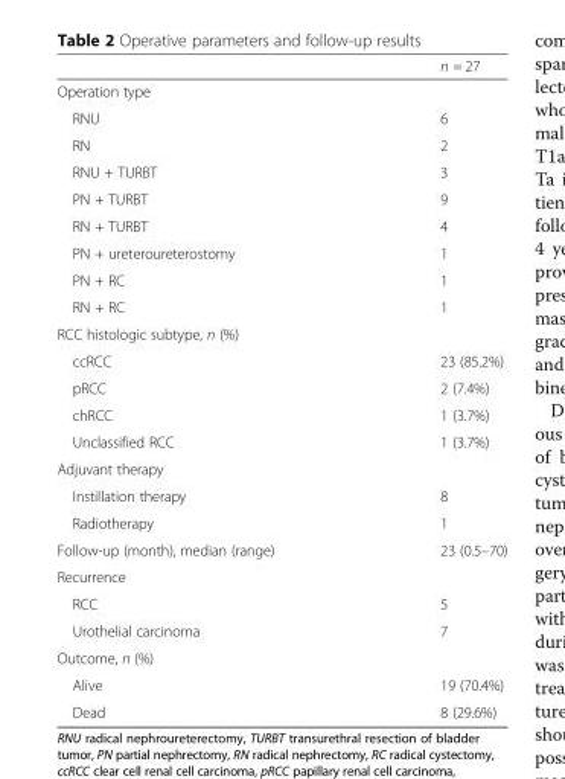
<table><thead><tr><td></td><td>n = 27</td></tr></thead><tbody><tr><td colspan="2">Operation type</td></tr><tr><td>RNU</td><td>6</td></tr><tr><td>RN</td><td>2</td></tr><tr><td>RNU + TURBT</td><td>3</td></tr><tr><td>PN + TURBT</td><td>9</td></tr><tr><td>RN + TURBT</td><td>4</td></tr><tr><td>PN + ureteroureterostomy</td><td>1</td></tr><tr><td>PN + RC</td><td>1</td></tr><tr><td>RN + RC</td><td>1</td></tr><tr><td colspan="2">RCC histologic subtype, n (%)</td></tr><tr><td>ccRCC</td><td>23 (85.2%)</td></tr><tr><td>pRCC</td><td>2 (7.4%)</td></tr><tr><td>chRCC</td><td>1 (3.7%)</td></tr><tr><td>Unclassified RCC</td><td>1 (3.7%)</td></tr><tr><td colspan="2">Adjuvant therapy</td></tr><tr><td>Instillation therapy</td><td>8</td></tr><tr><td>Radiotherapy</td><td>1</td></tr><tr><td>Follow-up (month), median (range)</td><td>23 (0.5–70)</td></tr><tr><td colspan="2">Recurrence</td></tr><tr><td>RCC</td><td>5</td></tr><tr><td>Urothelial carcinoma</td><td>7</td></tr><tr><td colspan="2">Outcome, n (%)</td></tr><tr><td>Alive</td><td>19 (70.4%)</td></tr><tr><td>Dead</td><td>8 (29.6%)</td></tr></tbody></table>